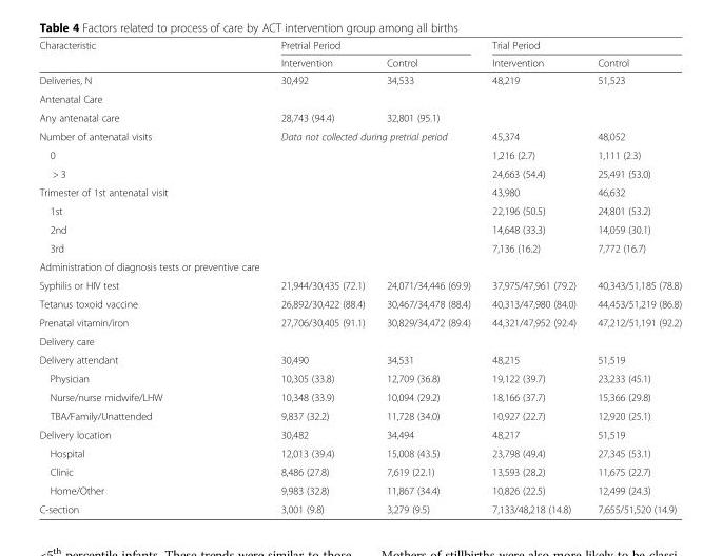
<table><thead><tr><td rowspan="2">Characteristic</td><td colspan="2">Pretrial Period</td><td colspan="2">Trial Period</td></tr><tr><td>Intervention</td><td>Control</td><td>Intervention</td><td>Control</td></tr></thead><tbody><tr><td>Deliveries, N</td><td>30,492</td><td>34,533</td><td>48,219</td><td>51,523</td></tr><tr><td colspan="5">Antenatal Care</td></tr><tr><td>Any antenatal care</td><td>28,743 (94.4)</td><td>32,801 (95.1)</td><td></td><td></td></tr><tr><td>Number of antenatal visits</td><td rowspan="7" colspan="2">Data not collected during pretrial period</td><td>45,374</td><td>48,052</td></tr><tr><td>0</td><td>1,216 (2.7)</td><td>1,111 (2.3)</td></tr><tr><td>&gt; 3</td><td>24,663 (54.4)</td><td>25,491 (53.0)</td></tr><tr><td>Trimester of 1st antenatal visit</td><td>43,980</td><td>46,632</td></tr><tr><td>1st</td><td>22,196 (50.5)</td><td>24,801 (53.2)</td></tr><tr><td>2nd</td><td>14,648 (33.3)</td><td>14,059 (30.1)</td></tr><tr><td>3rd</td><td>7,136 (16.2)</td><td>7,772 (16.7)</td></tr><tr><td colspan="5">Administration of diagnosis tests or preventive care</td></tr><tr><td>Syphilis or HIV test</td><td>21,944/30,435 (72.1)</td><td>24,071/34,446 (69.9)</td><td>37,975/47,961 (79.2)</td><td>40,343/51,185 (78.8)</td></tr><tr><td>Tetanus toxoid vaccine</td><td>26,892/30,422 (88.4)</td><td>30,467/34,478 (88.4)</td><td>40,313/47,980 (84.0)</td><td>44,453/51,219 (86.8)</td></tr><tr><td>Prenatal vitamin/iron</td><td>27,706/30,405 (91.1)</td><td>30,829/34,472 (89.4)</td><td>44,321/47,952 (92.4)</td><td>47,212/51,191 (92.2)</td></tr><tr><td colspan="5">Delivery care</td></tr><tr><td>Delivery attendant</td><td>30,490</td><td>34,531</td><td>48,215</td><td>51,519</td></tr><tr><td>Physician</td><td>10,305 (33.8)</td><td>12,709 (36.8)</td><td>19,122 (39.7)</td><td>23,233 (45.1)</td></tr><tr><td>Nurse/nurse midwife/LHW</td><td>10,348 (33.9)</td><td>10,094 (29.2)</td><td>18,166 (37.7)</td><td>15,366 (29.8)</td></tr><tr><td>TBA/Family/Unattended</td><td>9,837 (32.2)</td><td>11,728 (34.0)</td><td>10,927 (22.7)</td><td>12,920 (25.1)</td></tr><tr><td>Delivery location</td><td>30,482</td><td>34,494</td><td>48,217</td><td>51,519</td></tr><tr><td>Hospital</td><td>12,013 (39.4)</td><td>15,008 (43.5)</td><td>23,798 (49.4)</td><td>27,345 (53.1)</td></tr><tr><td>Clinic</td><td>8,486 (27.8)</td><td>7,619 (22.1)</td><td>13,593 (28.2)</td><td>11,675 (22.7)</td></tr><tr><td>Home/Other</td><td>9,983 (32.8)</td><td>11,867 (34.4)</td><td>10,826 (22.5)</td><td>12,499 (24.3)</td></tr><tr><td>C-section</td><td>3,001 (9.8)</td><td>3,279 (9.5)</td><td>7,133/48,218 (14.8)</td><td>7,655/51,520 (14.9)</td></tr></tbody></table>